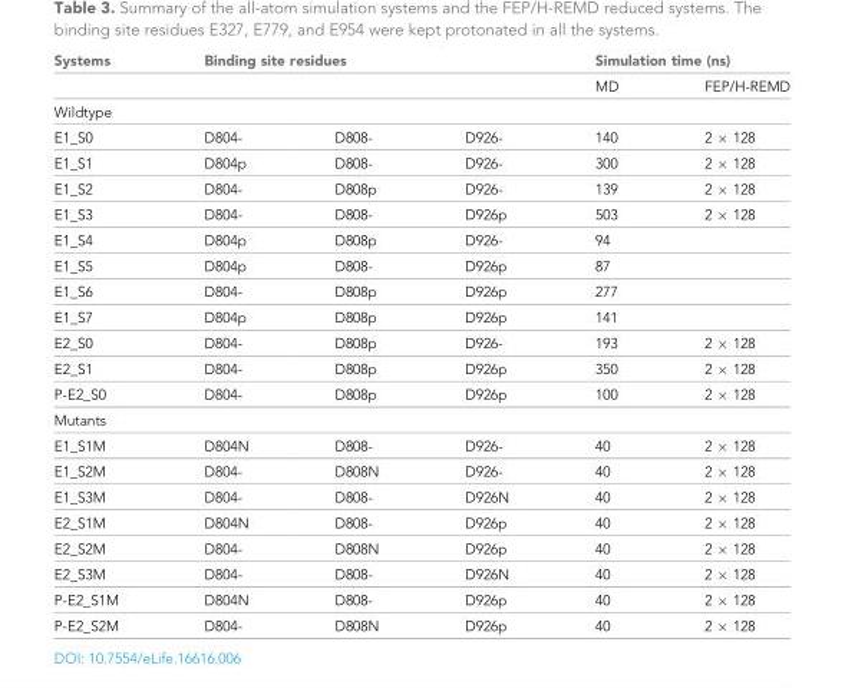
<table><thead><tr><td rowspan="3">Systems Wildtype</td><td rowspan="2" colspan="3">Binding site residues</td><td colspan="2">Simulation time (ns)</td></tr><tr><td rowspan="2">MD</td><td rowspan="2">FEP/H-REMD</td></tr><tr><td></td><td></td><td></td></tr></thead><tbody><tr><td>E1_S0</td><td>D804-</td><td>D808-</td><td>D926-</td><td>140</td><td>2 × 128</td></tr><tr><td>E1_S1</td><td>D804p</td><td>D808-</td><td>D926-</td><td>300</td><td>2 × 128</td></tr><tr><td>E1_S2</td><td>D804-</td><td>D808p</td><td>D926-</td><td>139</td><td>2 × 128</td></tr><tr><td>E1_S3</td><td>D804-</td><td>D808-</td><td>D926p</td><td>503</td><td>2 × 128</td></tr><tr><td>E1_S4</td><td>D804p</td><td>D808p</td><td>D926-</td><td>94</td><td></td></tr><tr><td>E1_S5</td><td>D804p</td><td>D808-</td><td>D926p</td><td>87</td><td></td></tr><tr><td>E1_S6</td><td>D804-</td><td>D808p</td><td>D926p</td><td>277</td><td></td></tr><tr><td>E1_S7</td><td>D804p</td><td>D808p</td><td>D926p</td><td>141</td><td></td></tr><tr><td>E2_S0</td><td>D804-</td><td>D808p</td><td>D926-</td><td>193</td><td>2 × 128</td></tr><tr><td>E2_S1</td><td>D804-</td><td>D808p</td><td>D926p</td><td>350</td><td>2 × 128</td></tr><tr><td>P-E2_S0</td><td>D804-</td><td>D808p</td><td>D926p</td><td>100</td><td>2 × 128</td></tr><tr><td colspan="6">Mutants</td></tr><tr><td>E1_S1M</td><td>D804N</td><td>D808-</td><td>D926-</td><td>40</td><td>2 × 128</td></tr><tr><td>E1_S2M</td><td>D804-</td><td>D808N</td><td>D926-</td><td>40</td><td>2 × 128</td></tr><tr><td>E1_S3M</td><td>D804-</td><td>D808-</td><td>D926N</td><td>40</td><td>2 × 128</td></tr><tr><td>E2_S1M</td><td>D804N</td><td>D808-</td><td>D926p</td><td>40</td><td>2 × 128</td></tr><tr><td>E2_S2M</td><td>D804-</td><td>D808N</td><td>D926p</td><td>40</td><td>2 × 128</td></tr><tr><td>E2_S3M</td><td>D804-</td><td>D808-</td><td>D926N</td><td>40</td><td>2 × 128</td></tr><tr><td>P-E2_S1M</td><td>D804N</td><td>D808-</td><td>D926p</td><td>40</td><td>2 × 128</td></tr><tr><td>P-E2_S2M</td><td>D804-</td><td>D808N</td><td>D926p</td><td>40</td><td>2 × 128</td></tr></tbody></table>